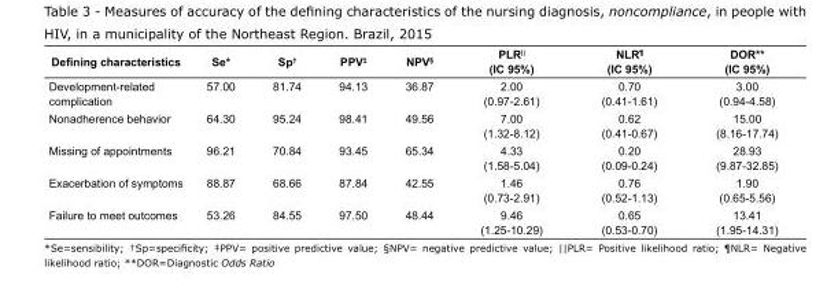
<table><tbody><tr><td>Defining characteristics</td><td>Se*</td><td>Sp<sup>†</sup></td><td>PPV<sup>‡</sup></td><td>NPV<sup>§</sup></td><td>PLR<sup>||</sup> (IC 95%)</td><td>NLR<sup>¶</sup> (IC 95%)</td><td>DOR** (IC 95%)</td></tr><tr><td>Development-related complication</td><td>57.00</td><td>81.74</td><td>94.13</td><td>36.87</td><td>2.00 (0.97-2.61)</td><td>0.70 (0.41-1.61)</td><td>3.00 (0.94-4.58)</td></tr><tr><td>Nonadherence behavior</td><td>64.30</td><td>95.24</td><td>98.41</td><td>49.56</td><td>7.00 (1.32-8.12)</td><td>0.62 (0.41-0.67)</td><td>15.00 (8.16-17.74)</td></tr><tr><td>Missing of appointments</td><td>96.21</td><td>70.84</td><td>93.45</td><td>65.34</td><td>4.33 (1.58-5.04)</td><td>0.20 (0.09-0.24)</td><td>28.93 (9.87-32.85)</td></tr><tr><td>Exacerbation of symptoms</td><td>88.87</td><td>68.66</td><td>87.84</td><td>42.55</td><td>1.46 (0.73-2.91)</td><td>0.76 (0.52-1.13)</td><td>1.90 (0.65-5.56)</td></tr><tr><td>Failure to meet outcomes</td><td>53.26</td><td>84.55</td><td>97.50</td><td>48.44</td><td>9.46 (1.25-10.29)</td><td>0.65 (0.53-0.70)</td><td>13.41 (1.95-14.31)</td></tr></tbody></table>